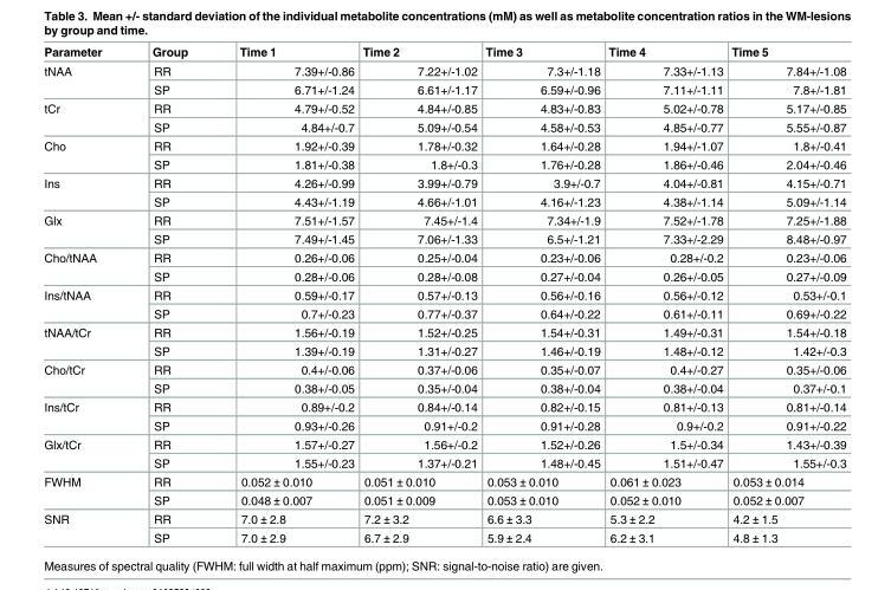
<table><thead><tr><td>Parameter</td><td>Group</td><td>Time 1</td><td>Time 2</td><td>Time 3</td><td>Time 4</td><td>Time 5</td></tr></thead><tbody><tr><td rowspan="2">tNAA</td><td>RR</td><td>7.39+/-0.86</td><td>7.22+/-1.02</td><td>7.3+/-1.18</td><td>7.33+/-1.13</td><td>7.84+/-1.08</td></tr><tr><td>SP</td><td>6.71+/-1.24</td><td>6.61+/-1.17</td><td>6.59+/-0.96</td><td>7.11+/-1.11</td><td>7.8+/-1.81</td></tr><tr><td rowspan="2">tCr</td><td>RR</td><td>4.79+/-0.52</td><td>4.84+/-0.85</td><td>4.83+/-0.83</td><td>5.02+/-0.78</td><td>5.17+/-0.85</td></tr><tr><td>SP</td><td>4.84+/-0.7</td><td>5.09+/-0.54</td><td>4.58+/-0.53</td><td>4.85+/-0.77</td><td>5.55+/-0.87</td></tr><tr><td rowspan="2">Cho</td><td>RR</td><td>1.92+/-0.39</td><td>1.78+/-0.32</td><td>1.64+/-0.28</td><td>1.94+/-1.07</td><td>1.8+/-0.41</td></tr><tr><td>SP</td><td>1.81+/-0.38</td><td>1.8+/-0.3</td><td>1.76+/-0.28</td><td>1.86+/-0.46</td><td>2.04+/-0.46</td></tr><tr><td rowspan="2">Ins</td><td>RR</td><td>4.26+/-0.99</td><td>3.99+/-0.79</td><td>3.9+/-0.7</td><td>4.04+/-0.81</td><td>4.15+/-0.71</td></tr><tr><td>SP</td><td>4.43+/-1.19</td><td>4.66+/-1.01</td><td>4.16+/-1.23</td><td>4.38+/-1.14</td><td>5.09+/-1.14</td></tr><tr><td rowspan="2">Glx</td><td>RR</td><td>7.51+/-1.57</td><td>7.45+/-1.4</td><td>7.34+/-1.9</td><td>7.52+/-1.78</td><td>7.25+/-1.88</td></tr><tr><td>SP</td><td>7.49+/-1.45</td><td>7.06+/-1.33</td><td>6.5+/-1.21</td><td>7.33+/-2.29</td><td>8.48+/-0.97</td></tr><tr><td rowspan="2">Cho/tNAA</td><td>RR</td><td>0.26+/-0.06</td><td>0.25+/-0.04</td><td>0.23+/-0.06</td><td>0.28+/-0.2</td><td>0.23+/-0.06</td></tr><tr><td>SP</td><td>0.28+/-0.06</td><td>0.28+/-0.08</td><td>0.27+/-0.04</td><td>0.26+/-0.05</td><td>0.27+/-0.09</td></tr><tr><td rowspan="2">Ins/tNAA</td><td>RR</td><td>0.59+/-0.17</td><td>0.57+/-0.13</td><td>0.56+/-0.16</td><td>0.56+/-0.12</td><td>0.53+/-0.1</td></tr><tr><td>SP</td><td>0.7+/-0.23</td><td>0.77+/-0.37</td><td>0.64+/-0.22</td><td>0.61+/-0.11</td><td>0.69+/-0.22</td></tr><tr><td rowspan="2">tNAA/tCr</td><td>RR</td><td>1.56+/-0.19</td><td>1.52+/-0.25</td><td>1.54+/-0.31</td><td>1.49+/-0.31</td><td>1.54+/-0.18</td></tr><tr><td>SP</td><td>1.39+/-0.19</td><td>1.31+/-0.27</td><td>1.46+/-0.19</td><td>1.48+/-0.12</td><td>1.42+/-0.3</td></tr><tr><td rowspan="2">Cho/tCr</td><td>RR</td><td>0.4+/-0.06</td><td>0.37+/-0.06</td><td>0.35+/-0.07</td><td>0.4+/-0.27</td><td>0.35+/-0.06</td></tr><tr><td>SP</td><td>0.38+/-0.05</td><td>0.35+/-0.04</td><td>0.38+/-0.04</td><td>0.38+/-0.04</td><td>0.37+/-0.1</td></tr><tr><td rowspan="2">Ins/tCr</td><td>RR</td><td>0.89+/-0.2</td><td>0.84+/-0.14</td><td>0.82+/-0.15</td><td>0.81+/-0.13</td><td>0.81+/-0.14</td></tr><tr><td>SP</td><td>0.93+/-0.26</td><td>0.91+/-0.2</td><td>0.91+/-0.28</td><td>0.9+/-0.2</td><td>0.91+/-0.22</td></tr><tr><td rowspan="2">Glx/tCr</td><td>RR</td><td>1.57+/-0.27</td><td>1.56+/-0.2</td><td>1.52+/-0.26</td><td>1.5+/-0.34</td><td>1.43+/-0.39</td></tr><tr><td>SP</td><td>1.55+/-0.23</td><td>1.37+/-0.21</td><td>1.48+/-0.45</td><td>1.51+/-0.47</td><td>1.55+/-0.3</td></tr><tr><td rowspan="2">FWHM</td><td>RR</td><td>0.052 ± 0.010</td><td>0.051 ± 0.010</td><td>0.053 ± 0.010</td><td>0.061 ± 0.023</td><td>0.053 ± 0.014</td></tr><tr><td>SP</td><td>0.048 ± 0.007</td><td>0.051 ± 0.009</td><td>0.053 ± 0.010</td><td>0.052 ± 0.010</td><td>0.052 ± 0.007</td></tr><tr><td rowspan="2">SNR</td><td>RR</td><td>7.0 ± 2.8</td><td>7.2 ± 3.2</td><td>6.6 ± 3.3</td><td>5.3 ± 2.2</td><td>4.2 ± 1.5</td></tr><tr><td>SP</td><td>7.0 ± 2.9</td><td>6.7 ± 2.9</td><td>5.9 ± 2.4</td><td>6.2 ± 3.1</td><td>4.8 ± 1.3</td></tr></tbody></table>